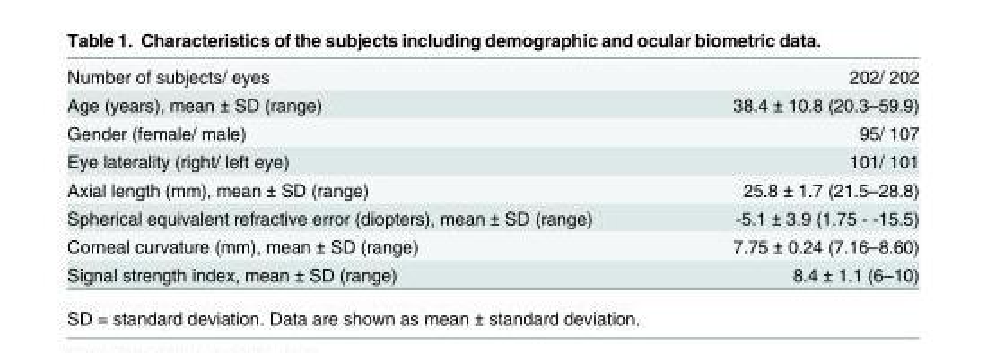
<table><tbody><tr><td>Number of subjects/ eyes</td><td>202/ 202</td></tr><tr><td>Age (years), mean ± SD (range)</td><td>38.4 ± 10.8 (20.3–59.9)</td></tr><tr><td>Gender (female/ male)</td><td>95/ 107</td></tr><tr><td>Eye laterality (right/ left eye)</td><td>101/ 101</td></tr><tr><td>Axial length (mm), mean ± SD (range)</td><td>25.8 ± 1.7 (21.5–28.8)</td></tr><tr><td>Spherical equivalent refractive error (diopters), mean ± SD (range)</td><td>-5.1 ± 3.9 (1.75 - -15.5)</td></tr><tr><td>Corneal curvature (mm), mean ± SD (range)</td><td>7.75 ± 0.24 (7.16–8.60)</td></tr><tr><td>Signal strength index, mean ± SD (range)</td><td>8.4 ± 1.1 (6–10)</td></tr></tbody></table>